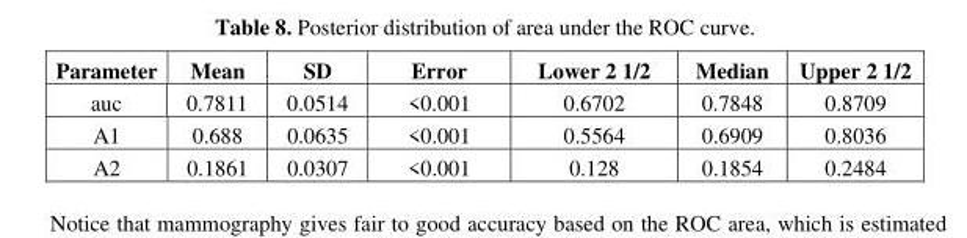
<table><thead><tr><td>Parameter</td><td>Mean</td><td>SD</td><td>Error</td><td>Lower 2 1/2</td><td>Median</td><td>Upper 2 1/2</td></tr></thead><tbody><tr><td>auc</td><td>0.7811</td><td>0.0514</td><td>&lt;0.001</td><td>0.6702</td><td>0.7848</td><td>0.8709</td></tr><tr><td>A1</td><td>0.688</td><td>0.0635</td><td>&lt;0.001</td><td>0.5564</td><td>0.6909</td><td>0.8036</td></tr><tr><td>A2</td><td>0.1861</td><td>0.0307</td><td>&lt;0.001</td><td>0.128</td><td>0.1854</td><td>0.2484</td></tr></tbody></table>